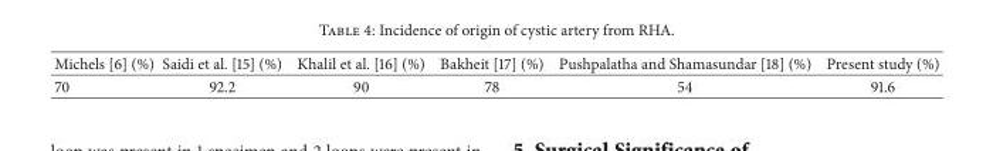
<table><thead><tr><td>Michels [6] (%)</td><td>Saidi et al. [15] (%)</td><td>Khalil et al. [16] (%)</td><td>Bakheit [17] (%)</td><td>Pushpalatha and Shamasundar [18] (%)</td><td>Present study (%)</td></tr></thead><tbody><tr><td>70</td><td>92.2</td><td>90</td><td>78</td><td>54</td><td>91.6</td></tr></tbody></table>